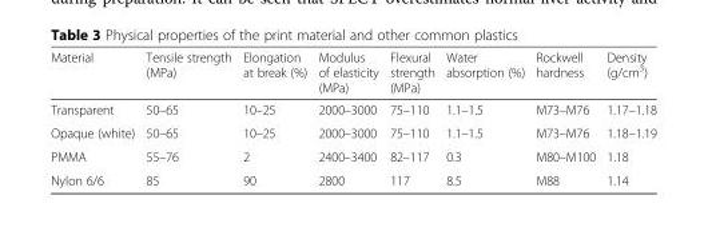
<table><thead><tr><td>Material</td><td>Tensile strength (MPa)</td><td>Elongation at break (%)</td><td>Modulus of elasticity (MPa)</td><td>Flexural strength (MPa)</td><td>Water absorption (%)</td><td>Rockwell hardness</td><td>Density (g/cm<sup>3</sup>)</td></tr></thead><tbody><tr><td>Transparent</td><td>50–65</td><td>10–25</td><td>2000–3000</td><td>75–110</td><td>1.1–1.5</td><td>M73–M76</td><td>1.17–1.18</td></tr><tr><td>Opaque (white)</td><td>50–65</td><td>10–25</td><td>2000–3000</td><td>75–110</td><td>1.1–1.5</td><td>M73–M76</td><td>1.18–1.19</td></tr><tr><td>PMMA</td><td>55–76</td><td>2</td><td>2400–3400</td><td>82–117</td><td>0.3</td><td>M80–M100</td><td>1.18</td></tr><tr><td>Nylon 6/6</td><td>85</td><td>90</td><td>2800</td><td>117</td><td>8.5</td><td>M88</td><td>1.14</td></tr></tbody></table>